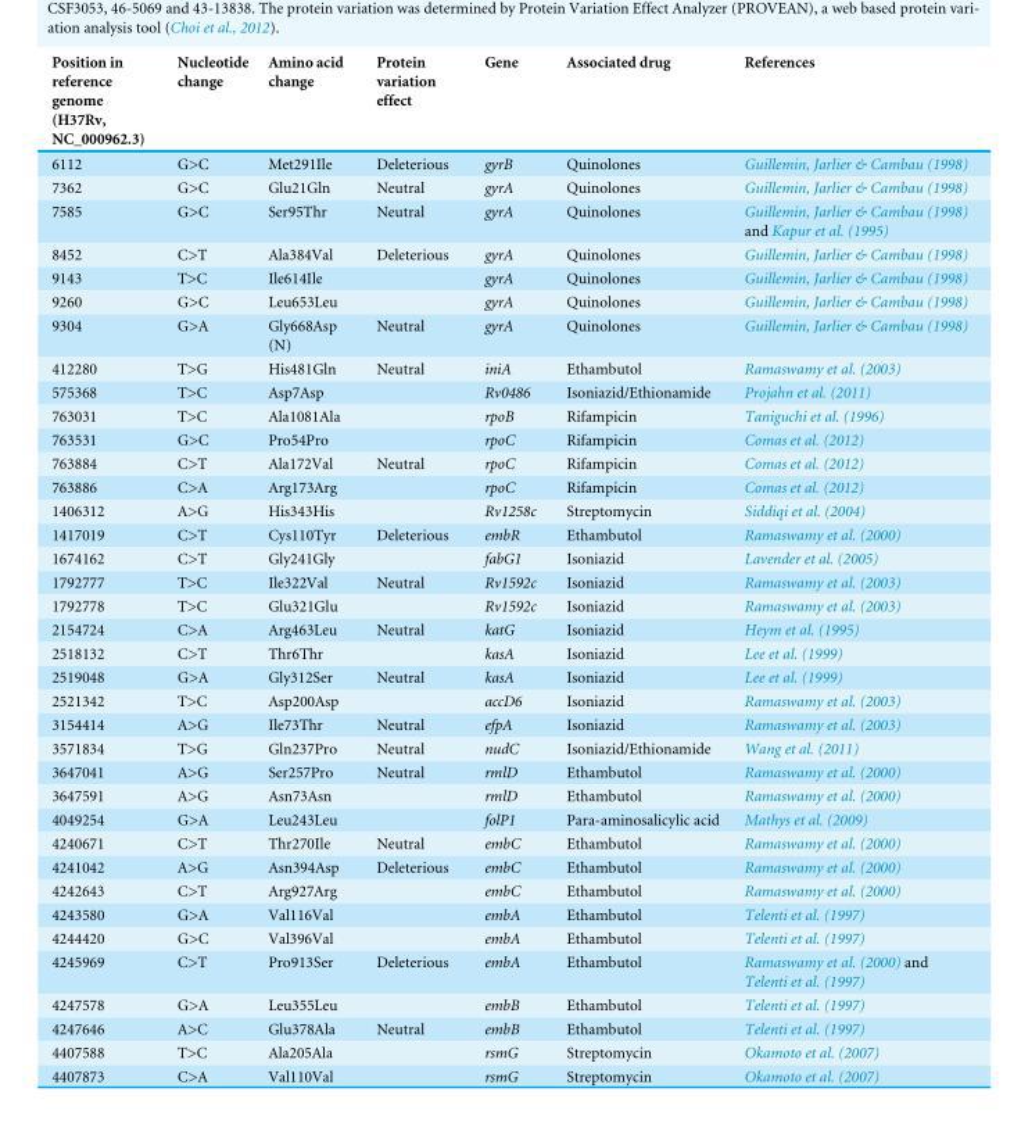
<table><thead><tr><td>Position in reference genome (H37Rv, NC_000962.3)</td><td>Nucleotide change</td><td>Amino acid change</td><td>Protein variation effect</td><td>Gene</td><td>Associated drug</td><td>References</td></tr></thead><tbody><tr><td>6112</td><td>G&gt;C</td><td>Met291Ile</td><td>Deleterious</td><td>gyrB</td><td>Quinolones</td><td>Guillemin, Jarlier &amp; Cambau (1998)</td></tr><tr><td>7362</td><td>G&gt;C</td><td>Glu21Gln</td><td>Neutral</td><td>gyrA</td><td>Quinolones</td><td>Guillemin, Jarlier &amp; Cambau (1998)</td></tr><tr><td>7585</td><td>G&gt;C</td><td>Ser95Thr</td><td>Neutral</td><td>gyrA</td><td>Quinolones</td><td>Guillemin, Jarlier &amp; Cambau (1998) and Kapur et al. (1995)</td></tr><tr><td>8452</td><td>C&gt;T</td><td>Ala384Val</td><td>Deleterious</td><td>gyrA</td><td>Quinolones</td><td>Guillemin, Jarlier &amp; Cambau (1998)</td></tr><tr><td>9143</td><td>T&gt;C</td><td>Ile614Ile</td><td></td><td>gyrA</td><td>Quinolones</td><td>Guillemin, Jarlier &amp; Cambau (1998)</td></tr><tr><td>9260</td><td>G&gt;C</td><td>Leu653Leu</td><td></td><td>gyrA</td><td>Quinolones</td><td>Guillemin, Jarlier &amp; Cambau (1998)</td></tr><tr><td>9304</td><td>G&gt;A</td><td>Gly668Asp (N)</td><td>Neutral</td><td>gyrA</td><td>Quinolones</td><td>Guillemin, Jarlier &amp; Cambau (1998)</td></tr><tr><td>412280</td><td>T&gt;G</td><td>His481Gln</td><td>Neutral</td><td>iniA</td><td>Ethambutol</td><td>Ramaswamy et al. (2003)</td></tr><tr><td>575368</td><td>T&gt;C</td><td>Asp7Asp</td><td></td><td>Rv0486</td><td>Isoniazid/Ethionamide</td><td>Projahn et al. (2011)</td></tr><tr><td>763031</td><td>T&gt;C</td><td>Ala1081Ala</td><td></td><td>rpoB</td><td>Rifampicin</td><td>Taniguchi et al. (1996)</td></tr><tr><td>763531</td><td>G&gt;C</td><td>Pro54Pro</td><td></td><td>rpoC</td><td>Rifampicin</td><td>Comas et al. (2012)</td></tr><tr><td>763884</td><td>C&gt;T</td><td>Ala172Val</td><td>Neutral</td><td>rpoC</td><td>Rifampicin</td><td>Comas et al. (2012)</td></tr><tr><td>763886</td><td>C&gt;A</td><td>Arg173Arg</td><td></td><td>rpoC</td><td>Rifampicin</td><td>Comas et al. (2012)</td></tr><tr><td>1406312</td><td>A&gt;G</td><td>His343His</td><td></td><td>Rv1258c</td><td>Streptomycin</td><td>Siddiqi et al. (2004)</td></tr><tr><td>1417019</td><td>C&gt;T</td><td>Cys110Tyr</td><td>Deleterious</td><td>embR</td><td>Ethambutol</td><td>Ramaswamy et al. (2000)</td></tr><tr><td>1674162</td><td>C&gt;T</td><td>Gly241Gly</td><td></td><td>fabG1</td><td>Isoniazid</td><td>Lavender et al. (2005)</td></tr><tr><td>1792777</td><td>T&gt;C</td><td>Ile322Val</td><td>Neutral</td><td>Rv1592c</td><td>Isoniazid</td><td>Ramaswamy et al. (2003)</td></tr><tr><td>1792778</td><td>T&gt;C</td><td>Glu321Glu</td><td></td><td>Rv1592c</td><td>Isoniazid</td><td>Ramaswamy et al. (2003)</td></tr><tr><td>2154724</td><td>C&gt;A</td><td>Arg463Leu</td><td>Neutral</td><td>katG</td><td>Isoniazid</td><td>Heym et al. (1995)</td></tr><tr><td>2518132</td><td>C&gt;T</td><td>Thr6Thr</td><td></td><td>kasA</td><td>Isoniazid</td><td>Lee et al. (1999)</td></tr><tr><td>2519048</td><td>G&gt;A</td><td>Gly312Ser</td><td>Neutral</td><td>kasA</td><td>Isoniazid</td><td>Lee et al. (1999)</td></tr><tr><td>2521342</td><td>T&gt;C</td><td>Asp200Asp</td><td></td><td>accD6</td><td>Isoniazid</td><td>Ramaswamy et al. (2003)</td></tr><tr><td>3154414</td><td>A&gt;G</td><td>Ile73Thr</td><td>Neutral</td><td>efpA</td><td>Isoniazid</td><td>Ramaswamy et al. (2003)</td></tr><tr><td>3571834</td><td>T&gt;G</td><td>Gln237Pro</td><td>Neutral</td><td>nudC</td><td>Isoniazid/Ethionamide</td><td>Wang et al. (2011)</td></tr><tr><td>3647041</td><td>A&gt;G</td><td>Ser257Pro</td><td>Neutral</td><td>rmlD</td><td>Ethambutol</td><td>Ramaswamy et al. (2000)</td></tr><tr><td>3647591</td><td>A&gt;G</td><td>Asn73Asn</td><td></td><td>rmlD</td><td>Ethambutol</td><td>Ramaswamy et al. (2000)</td></tr><tr><td>4049254</td><td>G&gt;A</td><td>Leu243Leu</td><td></td><td>folP1</td><td>Para-aminosalicylic acid</td><td>Mathys et al. (2009)</td></tr><tr><td>4240671</td><td>C&gt;T</td><td>Thr270Ile</td><td>Neutral</td><td>embC</td><td>Ethambutol</td><td>Ramaswamy et al. (2000)</td></tr><tr><td>4241042</td><td>A&gt;G</td><td>Asn394Asp</td><td>Deleterious</td><td>embC</td><td>Ethambutol</td><td>Ramaswamy et al. (2000)</td></tr><tr><td>4242643</td><td>C&gt;T</td><td>Arg927Arg</td><td></td><td>embC</td><td>Ethambutol</td><td>Ramaswamy et al. (2000)</td></tr><tr><td>4243580</td><td>G&gt;A</td><td>Val116Val</td><td></td><td>embA</td><td>Ethambutol</td><td>Telenti et al. (1997)</td></tr><tr><td>4244420</td><td>G&gt;C</td><td>Val396Val</td><td></td><td>embA</td><td>Ethambutol</td><td>Telenti et al. (1997)</td></tr><tr><td>4245969</td><td>C&gt;T</td><td>Pro913Ser</td><td>Deleterious</td><td>embA</td><td>Ethambutol</td><td>Ramaswamy et al. (2000) and Telenti et al. (1997)</td></tr><tr><td>4247578</td><td>G&gt;A</td><td>Leu355Leu</td><td></td><td>embB</td><td>Ethambutol</td><td>Telenti et al. (1997)</td></tr><tr><td>4247646</td><td>A&gt;C</td><td>Glu378Ala</td><td>Neutral</td><td>embB</td><td>Ethambutol</td><td>Telenti et al. (1997)</td></tr><tr><td>4407588</td><td>T&gt;C</td><td>Ala205Ala</td><td></td><td>rsmG</td><td>Streptomycin</td><td>Okamoto et al. (2007)</td></tr><tr><td>4407873</td><td>C&gt;A</td><td>Val110Val</td><td></td><td>rsmG</td><td>Streptomycin</td><td>Okamoto et al. (2007)</td></tr></tbody></table>